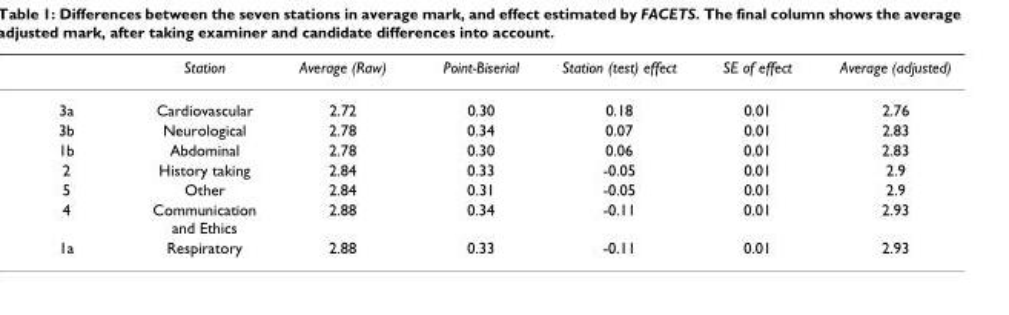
<table><thead><tr><td></td><td>Station</td><td>Average (Raw)</td><td>Point-Biserial</td><td>Station (test) effect</td><td>SE of effect</td><td>Average (adjusted)</td></tr></thead><tbody><tr><td>3a</td><td>Cardiovascular</td><td>2.72</td><td>0.30</td><td>0.18</td><td>0.01</td><td>2.76</td></tr><tr><td>3b</td><td>Neurological</td><td>2.78</td><td>0.34</td><td>0.07</td><td>0.01</td><td>2.83</td></tr><tr><td>1b</td><td>Abdominal</td><td>2.78</td><td>0.30</td><td>0.06</td><td>0.01</td><td>2.83</td></tr><tr><td>2</td><td>History taking</td><td>2.84</td><td>0.33</td><td>-0.05</td><td>0.01</td><td>2.9</td></tr><tr><td>5</td><td>Other</td><td>2.84</td><td>0.31</td><td>-0.05</td><td>0.01</td><td>2.9</td></tr><tr><td>4</td><td>Communication and Ethics</td><td>2.88</td><td>0.34</td><td>-0.11</td><td>0.01</td><td>2.93</td></tr><tr><td>1a</td><td>Respiratory</td><td>2.88</td><td>0.33</td><td>-0.11</td><td>0.01</td><td>2.93</td></tr></tbody></table>